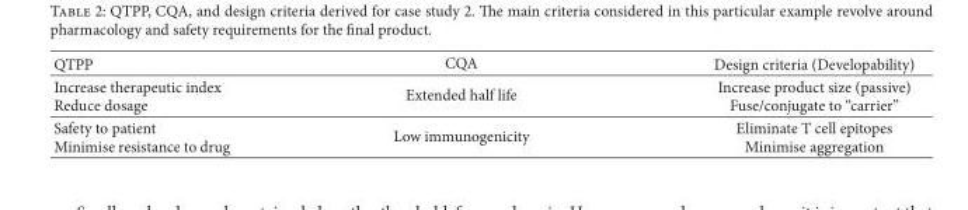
<table><thead><tr><td>QTPP</td><td>CQA</td><td>Design criteria (Developability)</td></tr></thead><tbody><tr><td>Increase therapeutic index Reduce dosage</td><td>Extended half life</td><td>Increase product size (passive) Fuse/conjugate to “carrier”</td></tr><tr><td>Safety to patient Minimise resistance to drug</td><td>Low immunogenicity</td><td>Eliminate T cell epitopes Minimise aggregation</td></tr></tbody></table>